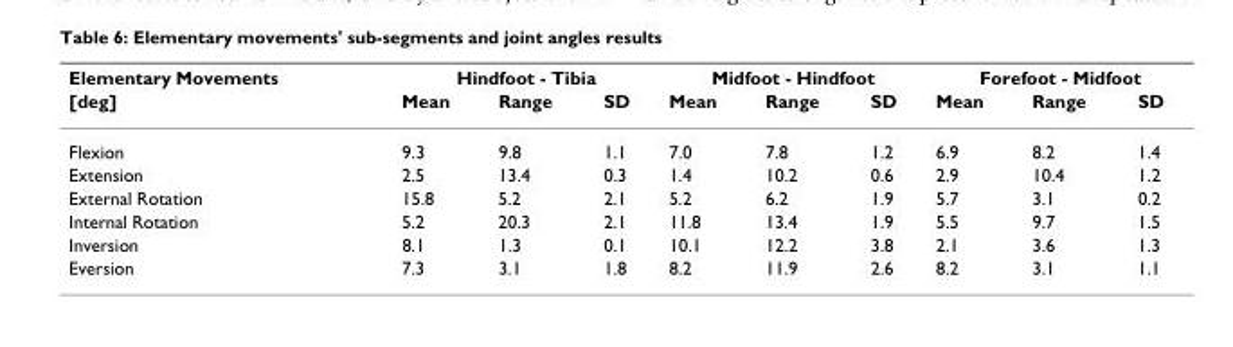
<table><thead><tr><td rowspan="2">Elementary Movements [deg]</td><td colspan="3">Hindfoot - Tibia</td><td colspan="3">Midfoot - Hindfoot</td><td colspan="3">Forefoot - Midfoot</td></tr><tr><td>Mean</td><td>Range</td><td>SD</td><td>Mean</td><td>Range</td><td>SD</td><td>Mean</td><td>Range</td><td>SD</td></tr></thead><tbody><tr><td>Flexion</td><td>9.3</td><td>9.8</td><td>1.1</td><td>7.0</td><td>7.8</td><td>1.2</td><td>6.9</td><td>8.2</td><td>1.4</td></tr><tr><td>Extension</td><td>2.5</td><td>13.4</td><td>0.3</td><td>1.4</td><td>10.2</td><td>0.6</td><td>2.9</td><td>10.4</td><td>1.2</td></tr><tr><td>External Rotation</td><td>15.8</td><td>5.2</td><td>2.1</td><td>5.2</td><td>6.2</td><td>1.9</td><td>5.7</td><td>3.1</td><td>0.2</td></tr><tr><td>Internal Rotation</td><td>5.2</td><td>20.3</td><td>2.1</td><td>11.8</td><td>13.4</td><td>1.9</td><td>5.5</td><td>9.7</td><td>1.5</td></tr><tr><td>Inversion</td><td>8.1</td><td>1.3</td><td>0.1</td><td>10.1</td><td>12.2</td><td>3.8</td><td>2.1</td><td>3.6</td><td>1.3</td></tr><tr><td>Eversion</td><td>7.3</td><td>3.1</td><td>1.8</td><td>8.2</td><td>11.9</td><td>2.6</td><td>8.2</td><td>3.1</td><td>1.1</td></tr></tbody></table>